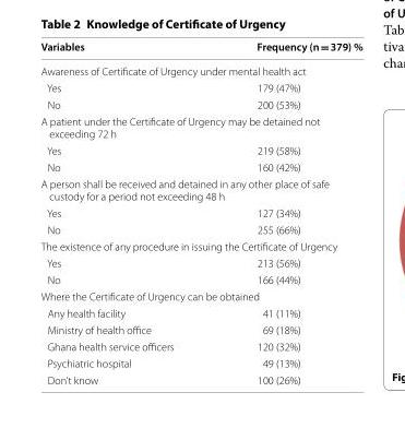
<table><thead><tr><td>Variables</td><td>Frequency (n = 379) %</td></tr></thead><tbody><tr><td colspan="2">Awareness of Certificate of Urgency under mental health act</td></tr><tr><td>Yes</td><td>179 (47%)</td></tr><tr><td>No</td><td>200 (53%)</td></tr><tr><td colspan="2">A patient under the Certificate of Urgency may be detained not exceeding 72 h</td></tr><tr><td>Yes</td><td>219 (58%)</td></tr><tr><td>No</td><td>160 (42%)</td></tr><tr><td colspan="2">A person shall be received and detained in any other place of safe custody for a period not exceeding 48 h</td></tr><tr><td>Yes</td><td>127 (34%)</td></tr><tr><td>No</td><td>255 (66%)</td></tr><tr><td colspan="2">The existence of any procedure in issuing the Certificate of Urgency</td></tr><tr><td>Yes</td><td>213 (56%)</td></tr><tr><td>No</td><td>166 (44%)</td></tr><tr><td colspan="2">Where the Certificate of Urgency can be obtained</td></tr><tr><td>Any health facility</td><td>41 (11%)</td></tr><tr><td>Ministry of health office</td><td>69 (18%)</td></tr><tr><td>Ghana health service officers</td><td>120 (32%)</td></tr><tr><td>Psychiatric hospital</td><td>49 (13%)</td></tr><tr><td>Don’t know</td><td>100 (26%)</td></tr></tbody></table>